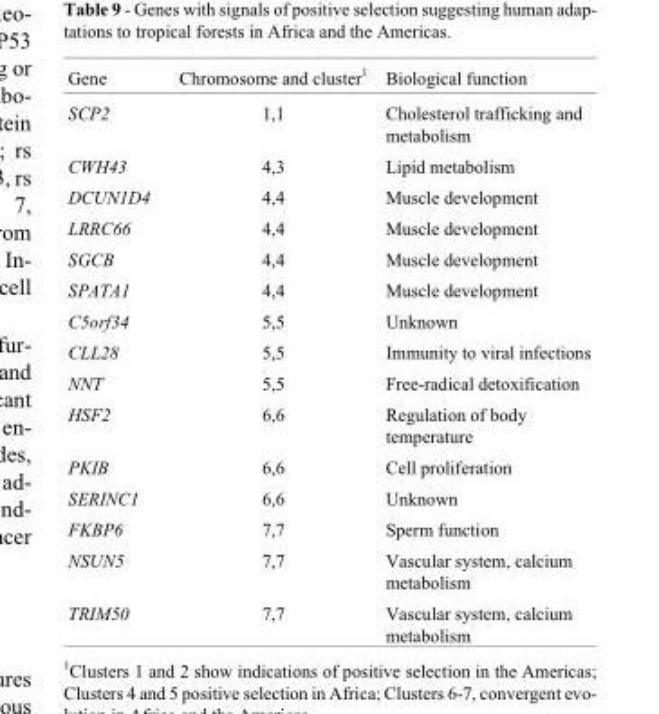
<table><thead><tr><td>Gene</td><td>Chromosome and cluster<sup>1</sup></td><td>Biological function</td></tr></thead><tbody><tr><td>SCP2</td><td>1,1</td><td>Cholesterol trafficking and metabolism</td></tr><tr><td>CWH43</td><td>4,3</td><td>Lipid metabolism</td></tr><tr><td>DCUN1D4</td><td>4,4</td><td>Muscle development</td></tr><tr><td>LRRC66</td><td>4,4</td><td>Muscle development</td></tr><tr><td>SGCB</td><td>4,4</td><td>Muscle development</td></tr><tr><td>SPATA1</td><td>4,4</td><td>Muscle development</td></tr><tr><td>C5orf34</td><td>5,5</td><td>Unknown</td></tr><tr><td>CLL28</td><td>5,5</td><td>Immunity to viral infections</td></tr><tr><td>NNT</td><td>5,5</td><td>Free-radical detoxification</td></tr><tr><td>HSF2</td><td>6,6</td><td>Regulation of body temperature</td></tr><tr><td>PKIB</td><td>6,6</td><td>Cell proliferation</td></tr><tr><td>SERINC1</td><td>6,6</td><td>Unknown</td></tr><tr><td>FKBP6</td><td>7,7</td><td>Sperm function</td></tr><tr><td>NSUN5</td><td>7,7</td><td>Vascular system, calcium metabolism</td></tr><tr><td>TRIM50</td><td>7,7</td><td>Vascular system, calcium metabolism</td></tr></tbody></table>